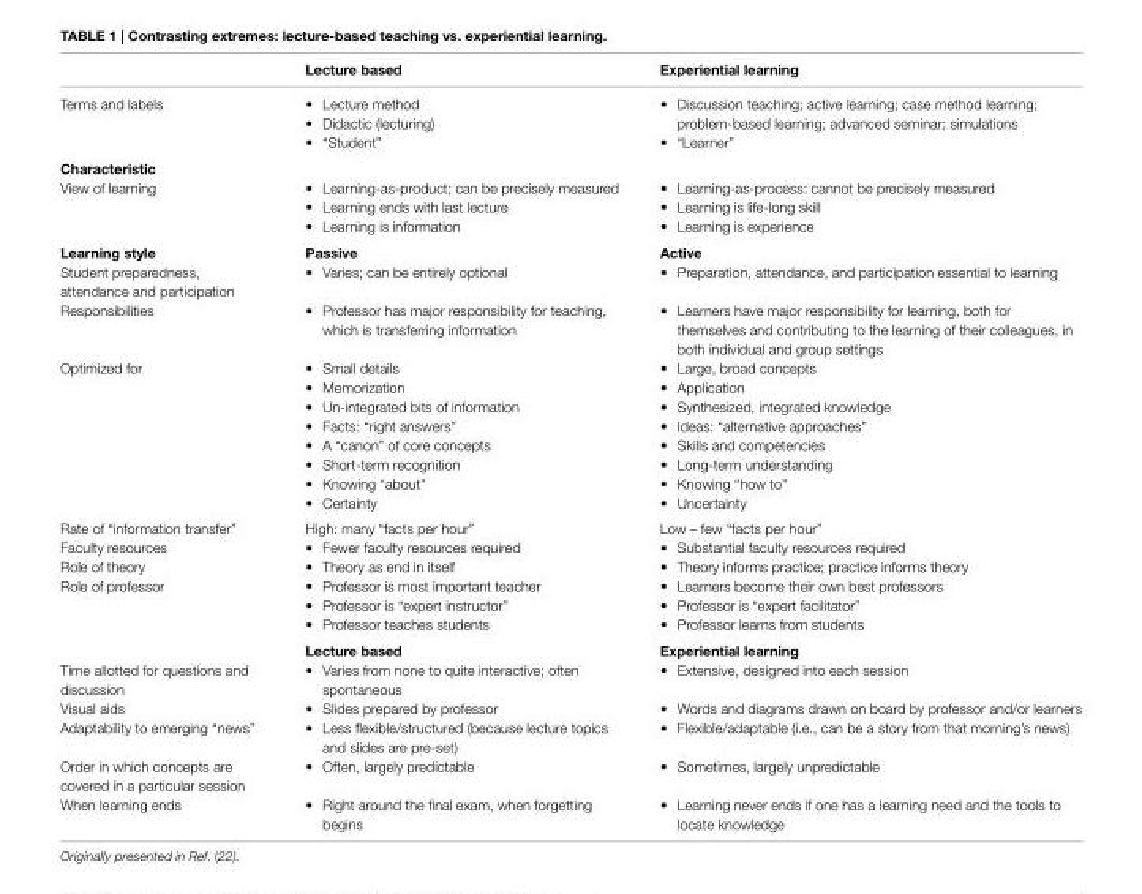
<table><thead><tr><td></td><td>lecture based</td><td>experiential learning</td></tr></thead><tbody><tr><td>Terms and labels</td><td>• Lecture method • Didactic (lecturing) • “Student”</td><td>• Discussion teaching; active learning; case method learning; problem-based learning; advanced seminar; simulations • “Learner”</td></tr><tr><td colspan="3">Characteristic</td></tr><tr><td>View of learning</td><td>• Learning-as-product; can be precisely measured • Learning ends with last lecture • Learning is information</td><td>• Learning-as-process: cannot be precisely measured • Learning is life-long skill • Learning is experience</td></tr><tr><td>learning style</td><td>Passive</td><td>active</td></tr><tr><td>Student preparedness, attendance and participation</td><td>• Varies; can be entirely optional</td><td>• Preparation, attendance, and participation essential to learning</td></tr><tr><td>Responsibilities</td><td>• Professor has major responsibility for teaching, which is transferring information</td><td>• Learners have major responsibility for learning, both for themselves and contributing to the learning of their colleagues, in both individual and group settings</td></tr><tr><td>Optimized for</td><td>• Small details • Memorization • Un-integrated bits of information • Facts: “right answers” • A “canon” of core concepts • Short-term recognition • Knowing “about” • Certainty</td><td>• Large, broad concepts • Application • Synthesized, integrated knowledge • Ideas: “alternative approaches” • Skills and competencies • Long-term understanding • Knowing “how to” • Uncertainty</td></tr><tr><td>Rate of “information transfer”</td><td>High: many “facts per hour”</td><td>Low – few “facts per hour”</td></tr><tr><td>Faculty resources</td><td>• Fewer faculty resources required</td><td>• Substantial faculty resources required</td></tr><tr><td>Role of theory</td><td>• Theory as end in itself</td><td>• Theory informs practice; practice informs theory</td></tr><tr><td rowspan="2">Role of professor</td><td>• Professor is most important teacher • Professor is “expert instructor” • Professor teaches students</td><td>• Learners become their own best professors • Professor is “expert facilitator” • Professor learns from students</td></tr><tr><td>lecture based</td><td>experiential learning</td></tr><tr><td>Time allotted for questions and discussion</td><td>• Varies from none to quite interactive; often spontaneous</td><td>• Extensive, designed into each session</td></tr><tr><td>Visual aids</td><td>• Slides prepared by professor</td><td>• Words and diagrams drawn on board by professor and/or learners</td></tr><tr><td>Adaptability to emerging “news”</td><td>• Less flexible/structured (because lecture topics and slides are pre-set)</td><td>• Flexible/adaptable (i.e., can be a story from that morning’s news)</td></tr><tr><td>Order in which concepts are covered in a particular session</td><td>• Often, largely predictable</td><td>• Sometimes, largely unpredictable</td></tr><tr><td>When learning ends</td><td>• Right around the final exam, when forgetting begins</td><td>• Learning never ends if one has a learning need and the tools to locate knowledge</td></tr></tbody></table>